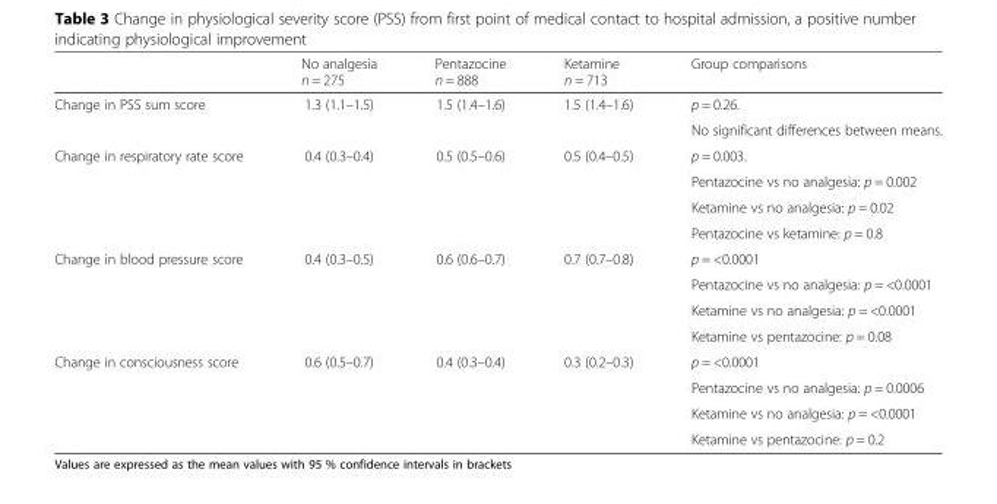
<table><thead><tr><td></td><td>No analgesia n = 275</td><td>Pentazocine n = 888</td><td>Ketamine n = 713</td><td>Group comparisons</td></tr></thead><tbody><tr><td rowspan="2">Change in PSS sum score</td><td rowspan="2">1.3 (1.1–1.5)</td><td rowspan="2">1.5 (1.4–1.6)</td><td rowspan="2">1.5 (1.4–1.6)</td><td>p = 0.26.</td></tr><tr><td>No significant differences between means.</td></tr><tr><td rowspan="4">Change in respiratory rate score</td><td rowspan="4">0.4 (0.3–0.4)</td><td rowspan="4">0.5 (0.5–0.6)</td><td rowspan="4">0.5 (0.4–0.5)</td><td>p = 0.003.</td></tr><tr><td>Pentazocine vs no analgesia: p = 0.002</td></tr><tr><td>Ketamine vs no analgesia: p = 0.02</td></tr><tr><td>Pentazocine vs ketamine: p = 0.8</td></tr><tr><td rowspan="4">Change in blood pressure score</td><td rowspan="4">0.4 (0.3–0.5)</td><td rowspan="4">0.6 (0.6–0.7)</td><td rowspan="4">0.7 (0.7–0.8)</td><td>p = &lt;0.0001</td></tr><tr><td>Pentazocine vs no analgesia: p = &lt;0.0001</td></tr><tr><td>Ketamine vs no analgesia: p = &lt;0.0001</td></tr><tr><td>Ketamine vs pentazocine: p = 0.08</td></tr><tr><td rowspan="4">Change in consciousness score</td><td rowspan="4">0.6 (0.5–0.7)</td><td rowspan="4">0.4 (0.3–0.4)</td><td rowspan="4">0.3 (0.2–0.3)</td><td>p = &lt;0.0001</td></tr><tr><td>Pentazocine vs no analgesia: p = 0.0006</td></tr><tr><td>Ketamine vs no analgesia: p = &lt;0.0001</td></tr><tr><td>Ketamine vs pentazocine: p = 0.2</td></tr></tbody></table>